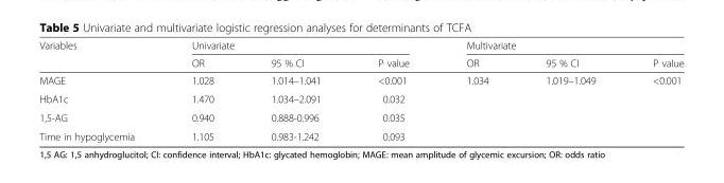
<table><tbody><tr><td rowspan="2">Variables</td><td colspan="3">Univariate</td><td colspan="3">Multivariate</td></tr><tr><td>OR</td><td>95 % CI</td><td>P value</td><td>OR</td><td>95 % CI</td><td>P value</td></tr><tr><td>MAGE</td><td>1.028</td><td>1.014–1.041</td><td>&lt;0.001</td><td>1.034</td><td>1.019–1.049</td><td>&lt;0.001</td></tr><tr><td>HbA1c</td><td>1.470</td><td>1.034–2.091</td><td>0.032</td><td></td><td></td><td></td></tr><tr><td>1,5-AG</td><td>0.940</td><td>0.888-0.996</td><td>0.035</td><td></td><td></td><td></td></tr><tr><td>Time in hypoglycemia</td><td>1.105</td><td>0.983-1.242</td><td>0.093</td><td></td><td></td><td></td></tr></tbody></table>